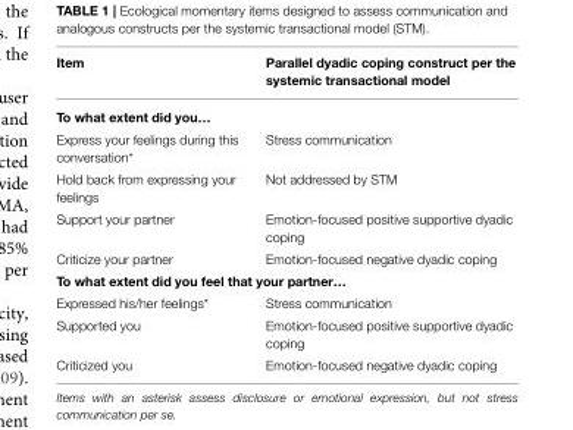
<table><thead><tr><td>Item</td><td>Parallel dyadic coping construct per the systemic transactional model</td></tr></thead><tbody><tr><td colspan="2">To what extent did you…</td></tr><tr><td>Express your feelings during this conversation*</td><td>Stress communication</td></tr><tr><td>Hold back from expressing your feelings</td><td>Not addressed by STM</td></tr><tr><td>Support your partner</td><td>Emotion-focused positive supportive dyadic coping</td></tr><tr><td>Criticize your partner</td><td>Emotion-focused negative dyadic coping</td></tr><tr><td colspan="2">To what extent did you feel that your partner…</td></tr><tr><td>Expressed his/her feelings*</td><td>Stress communication</td></tr><tr><td>Supported you</td><td>Emotion-focused positive supportive dyadic coping</td></tr><tr><td>Criticized you</td><td>Emotion-focused negative dyadic coping</td></tr></tbody></table>